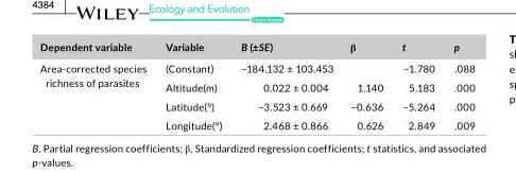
<table><thead><tr><td>Dependent variable</td><td>Variable</td><td>B (±SE)</td><td>β</td><td>t</td><td>p</td></tr></thead><tbody><tr><td rowspan="4">Area- corrected species richness of parasites</td><td>(Constant)</td><td>−184.132 ± 103.453</td><td></td><td>−1.780</td><td>.088</td></tr><tr><td>Altitude(m)</td><td>0.022 ± 0.004</td><td>1.140</td><td>5.183</td><td>.000</td></tr><tr><td>Latitude(°)</td><td>−3.523 ± 0.669</td><td>−0.636</td><td>−5.264</td><td>.000</td></tr><tr><td>Longitude(°)</td><td>2.468 ± 0.866</td><td>0.626</td><td>2.849</td><td>.009</td></tr></tbody></table>